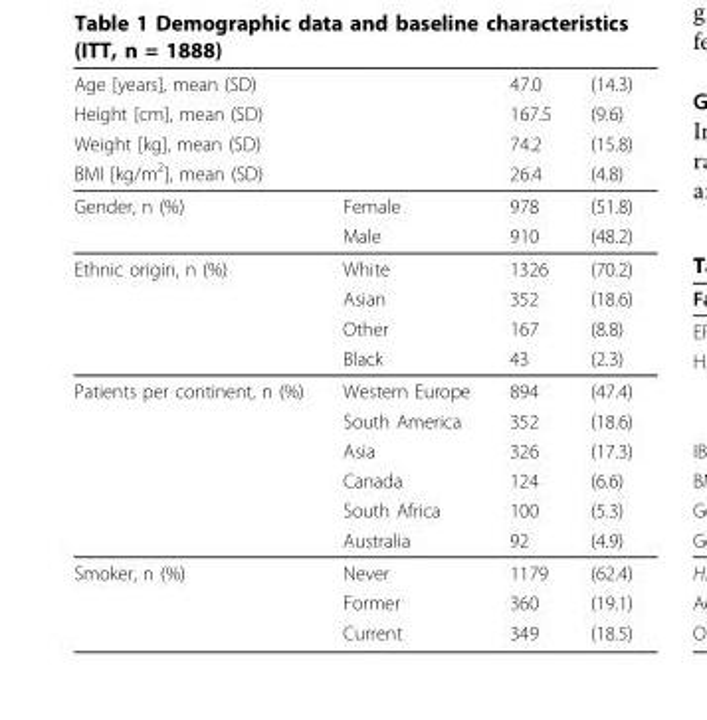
<table><thead><tr><td rowspan="4" colspan="2">Age [years], mean (SD) Height [cm], mean (SD) Weight [kg], mean (SD) BMI [kg/m2], mean (SD)</td><td rowspan="5">47.0 167.5 74.2 26.4 978</td><td rowspan="5">(14.3) (9.6) (15.8) (4.8) (51.8)</td></tr><tr></tr><tr></tr><tr></tr><tr><td>Gender, n (%)</td><td>Female</td></tr></thead><tbody><tr><td></td><td>Male</td><td>910</td><td>(48.2)</td></tr><tr><td rowspan="4">Ethnic origin, n (%)</td><td>White</td><td>1326</td><td>(70.2)</td></tr><tr><td>Asian</td><td>352</td><td>(18.6)</td></tr><tr><td>Other</td><td>167</td><td>(8.8)</td></tr><tr><td>Black</td><td>43</td><td>(2.3)</td></tr><tr><td rowspan="6">Patients per continent, n (%)</td><td>Western Europe</td><td>894</td><td>(47.4)</td></tr><tr><td>South America</td><td>352</td><td>(18.6)</td></tr><tr><td>Asia</td><td>326</td><td>(17.3)</td></tr><tr><td>Canada</td><td>124</td><td>(6.6)</td></tr><tr><td>South Africa</td><td>100</td><td>(5.3)</td></tr><tr><td>Australia</td><td>92</td><td>(4.9)</td></tr><tr><td rowspan="3">Smoker, n (%)</td><td>Never</td><td>1179</td><td>(62.4)</td></tr><tr><td>Former</td><td>360</td><td>(19.1)</td></tr><tr><td>Current</td><td>349</td><td>(18.5)</td></tr></tbody></table>